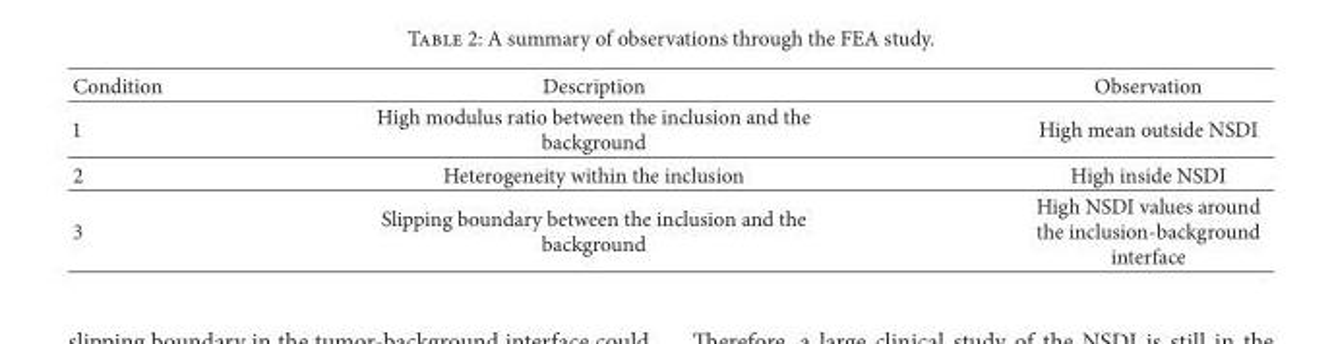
<table><thead><tr><td>Condition</td><td>Description</td><td>Observation</td></tr></thead><tbody><tr><td>1</td><td>High modulus ratio between the inclusion and the background</td><td>High mean outside NSDI</td></tr><tr><td>2</td><td>Heterogeneity within the inclusion</td><td>High inside NSDI</td></tr><tr><td>3</td><td>Slipping boundary between the inclusion and the background</td><td>High NSDI values around the inclusion-background interface</td></tr></tbody></table>